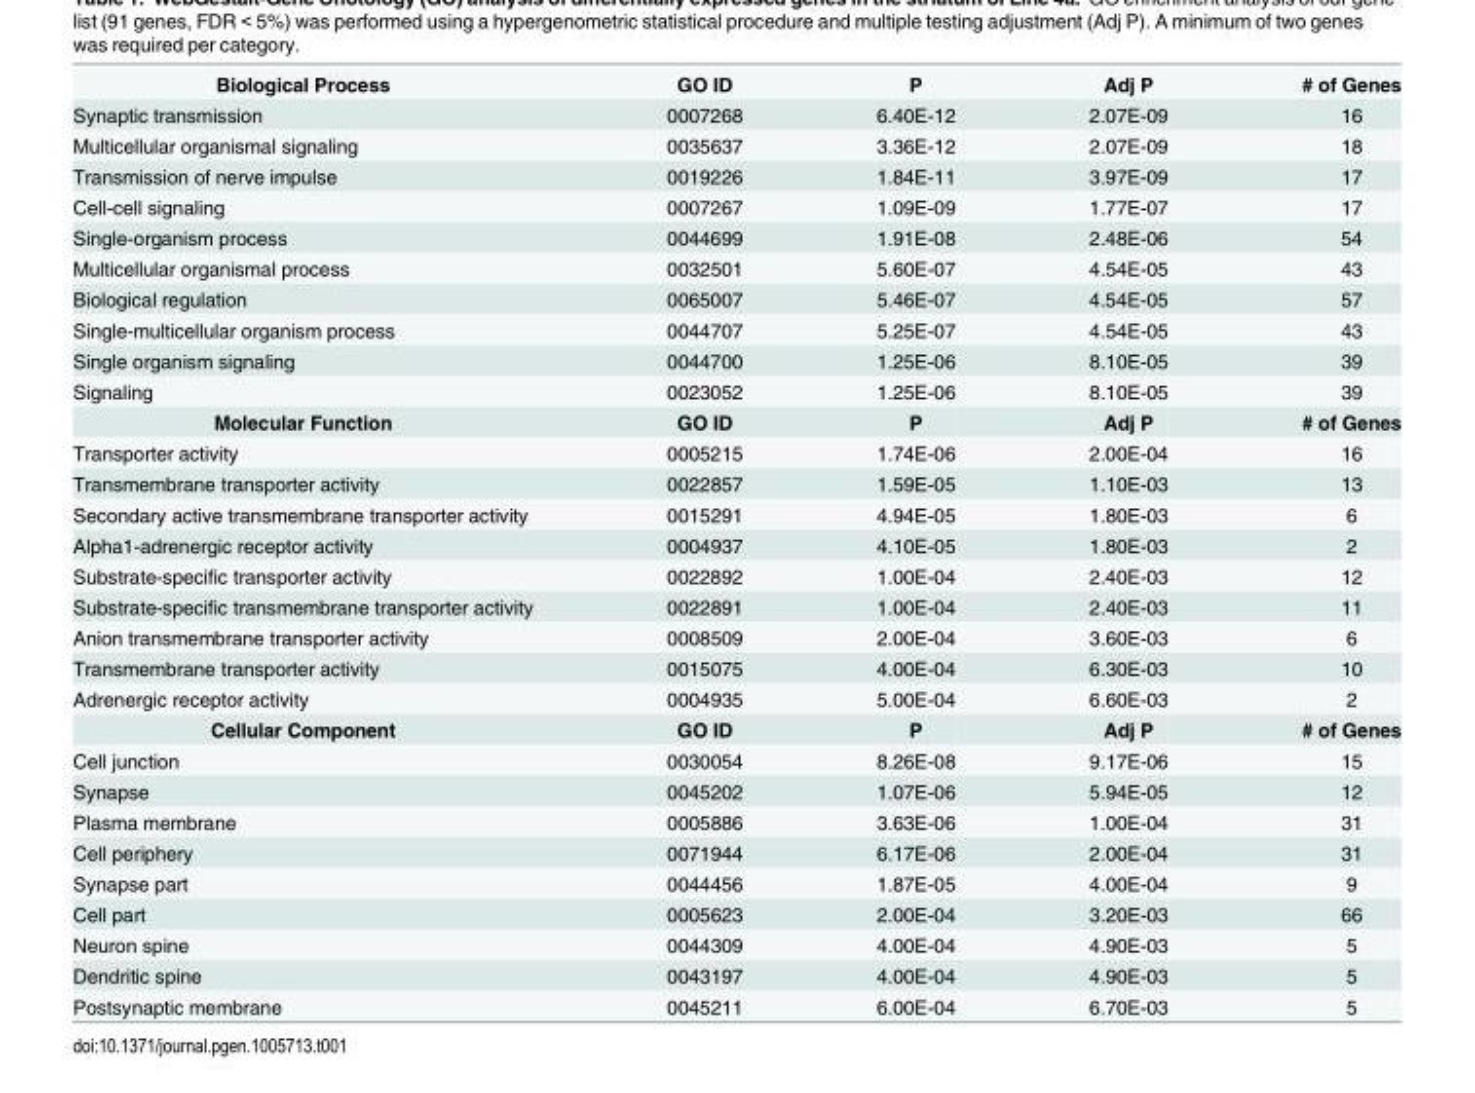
<table><tbody><tr><td>Biological Process</td><td>GO ID</td><td>P</td><td>Adj P</td><td># of Genes</td></tr><tr><td>Synaptic transmission</td><td>0007268</td><td>6.40E-12</td><td>2.07E-09</td><td>16</td></tr><tr><td>Multicellular organismal signaling</td><td>0035637</td><td>3.36E-12</td><td>2.07E-09</td><td>18</td></tr><tr><td>Transmission of nerve impulse</td><td>0019226</td><td>1.84E-11</td><td>3.97E-09</td><td>17</td></tr><tr><td>Cell-cell signaling</td><td>0007267</td><td>1.09E-09</td><td>1.77E-07</td><td>17</td></tr><tr><td>Single-organism process</td><td>0044699</td><td>1.91E-08</td><td>2.48E-06</td><td>54</td></tr><tr><td>Multicellular organismal process</td><td>0032501</td><td>5.60E-07</td><td>4.54E-05</td><td>43</td></tr><tr><td>Biological regulation</td><td>0065007</td><td>5.46E-07</td><td>4.54E-05</td><td>57</td></tr><tr><td>Single-multicellular organism process</td><td>0044707</td><td>5.25E-07</td><td>4.54E-05</td><td>43</td></tr><tr><td>Single organism signaling</td><td>0044700</td><td>1.25E-06</td><td>8.10E-05</td><td>39</td></tr><tr><td>Signaling</td><td>0023052</td><td>1.25E-06</td><td>8.10E-05</td><td>39</td></tr><tr><td>Molecular Function</td><td>GO ID</td><td>P</td><td>Adj P</td><td># of Genes</td></tr><tr><td>Transporter activity</td><td>0005215</td><td>1.74E-06</td><td>2.00E-04</td><td>16</td></tr><tr><td>Transmembrane transporter activity</td><td>0022857</td><td>1.59E-05</td><td>1.10E-03</td><td>13</td></tr><tr><td>Secondary active transmembrane transporter activity</td><td>0015291</td><td>4.94E-05</td><td>1.80E-03</td><td>6</td></tr><tr><td>Alpha1-adrenergic receptor activity</td><td>0004937</td><td>4.10E-05</td><td>1.80E-03</td><td>2</td></tr><tr><td>Substrate-specific transporter activity</td><td>0022892</td><td>1.00E-04</td><td>2.40E-03</td><td>12</td></tr><tr><td>Substrate-specific transmembrane transporter activity</td><td>0022891</td><td>1.00E-04</td><td>2.40E-03</td><td>11</td></tr><tr><td>Anion transmembrane transporter activity</td><td>0008509</td><td>2.00E-04</td><td>3.60E-03</td><td>6</td></tr><tr><td>Transmembrane transporter activity</td><td>0015075</td><td>4.00E-04</td><td>6.30E-03</td><td>10</td></tr><tr><td>Adrenergic receptor activity</td><td>0004935</td><td>5.00E-04</td><td>6.60E-03</td><td>2</td></tr><tr><td>Cellular Component</td><td>GO ID</td><td>P</td><td>Adj P</td><td># of Genes</td></tr><tr><td>Cell junction</td><td>0030054</td><td>8.26E-08</td><td>9.17E-06</td><td>15</td></tr><tr><td>Synapse</td><td>0045202</td><td>1.07E-06</td><td>5.94E-05</td><td>12</td></tr><tr><td>Plasma membrane</td><td>0005886</td><td>3.63E-06</td><td>1.00E-04</td><td>31</td></tr><tr><td>Cell periphery</td><td>0071944</td><td>6.17E-06</td><td>2.00E-04</td><td>31</td></tr><tr><td>Synapse part</td><td>0044456</td><td>1.87E-05</td><td>4.00E-04</td><td>9</td></tr><tr><td>Cell part</td><td>0005623</td><td>2.00E-04</td><td>3.20E-03</td><td>66</td></tr><tr><td>Neuron spine</td><td>0044309</td><td>4.00E-04</td><td>4.90E-03</td><td>5</td></tr><tr><td>Dendritic spine</td><td>0043197</td><td>4.00E-04</td><td>4.90E-03</td><td>5</td></tr><tr><td>Postsynaptic membrane</td><td>0045211</td><td>6.00E-04</td><td>6.70E-03</td><td>5</td></tr></tbody></table>